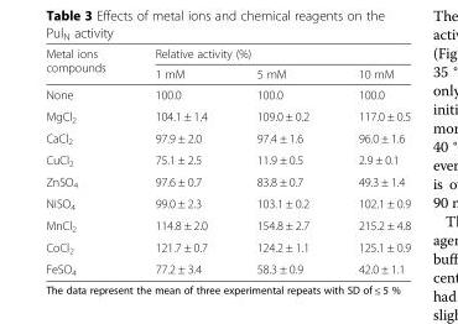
<table><thead><tr><td rowspan="2">Metal ions compounds</td><td colspan="3">Relative activity (%)</td></tr><tr><td>1 mM</td><td>5 mM</td><td>10 mM</td></tr></thead><tbody><tr><td>None</td><td>100.0</td><td>100.0</td><td>100.0</td></tr><tr><td>MgCl<sub>2</sub></td><td>104.1 ± 1.4</td><td>109.0 ± 0.2</td><td>117.0 ± 0.5</td></tr><tr><td>CaCl<sub>2</sub></td><td>97.9 ± 2.0</td><td>97.4 ± 1.6</td><td>96.0 ± 1.6</td></tr><tr><td>CuCl<sub>2</sub></td><td>75.1 ± 2.5</td><td>11.9 ± 0.5</td><td>2.9 ± 0.1</td></tr><tr><td>ZnSO<sub>4</sub></td><td>97.6 ± 0.7</td><td>83.8 ± 0.7</td><td>49.3 ± 1.4</td></tr><tr><td>NiSO<sub>4</sub></td><td>99.0 ± 2.3</td><td>103.1 ± 0.2</td><td>102.1 ± 0.9</td></tr><tr><td>MnCl<sub>2</sub></td><td>114.8 ± 2.0</td><td>154.8 ± 2.7</td><td>215.2 ± 4.8</td></tr><tr><td>CoCl<sub>2</sub></td><td>121.7 ± 0.7</td><td>124.2 ± 1.1</td><td>125.1 ± 0.9</td></tr><tr><td>FeSO<sub>4</sub></td><td>77.2 ± 3.4</td><td>58.3 ± 0.9</td><td>42.0 ± 1.1</td></tr></tbody></table>